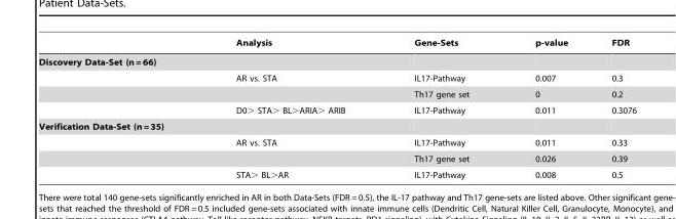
<table><thead><tr><td></td><td>Analysis</td><td>Gene-Sets</td><td>p-value</td><td>FDR</td></tr></thead><tbody><tr><td colspan="5">Discovery Data-Set (n = 66)</td></tr><tr><td></td><td>AR vs. STA</td><td>IL17-Pathway</td><td>0.007</td><td>0.3</td></tr><tr><td></td><td></td><td>Th17 gene set</td><td>0</td><td>0.2</td></tr><tr><td></td><td>D0&gt; STA&gt; BL&gt;ARIA&gt; ARIB</td><td>IL17-Pathway</td><td>0.011</td><td>0.3076</td></tr><tr><td colspan="5">Verification Data-Set (n = 35)</td></tr><tr><td></td><td>AR vs. STA</td><td>IL17-Pathway</td><td>0.011</td><td>0.33</td></tr><tr><td></td><td></td><td>Th17 gene set</td><td>0.026</td><td>0.39</td></tr><tr><td></td><td>STA&gt; BL&gt;AR</td><td>IL17-Pathway</td><td>0.008</td><td>0.5</td></tr></tbody></table>